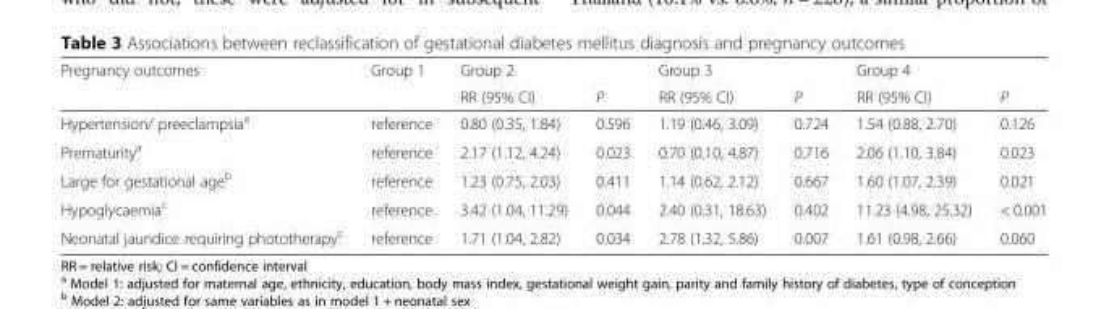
<table><thead><tr><td rowspan="2">Pregnancy outcomes</td><td rowspan="2">Group 1</td><td rowspan="2">Group 2 RR (95% CI)</td><td rowspan="2">P</td><td rowspan="2">Group 3 RR (95% CI)</td><td rowspan="2">P</td><td rowspan="2">Group 4 RR (95% CI)</td><td rowspan="2">P</td></tr><tr></tr></thead><tbody><tr><td>Hypertension/ preeclampsia<sup>a</sup></td><td>reference</td><td>0.80 (0.35, 1.84)</td><td>0.596</td><td>1.19 (0.46, 3.09)</td><td>0.724</td><td>1.54 (0.88, 2.70)</td><td>0.126</td></tr><tr><td>Prematurity<sup>a</sup></td><td>reference</td><td>2.17 (1.12, 4.24)</td><td>0.023</td><td>0.70 (0.10, 4.87)</td><td>0.716</td><td>2.06 (1.10, 3.84)</td><td>0.023</td></tr><tr><td>Large for gestational age<sup>b</sup></td><td>reference</td><td>1.23 (0.75, 2.03)</td><td>0.411</td><td>1.14 (0.62, 2.12)</td><td>0.667</td><td>1.60 (1.07, 2.39)</td><td>0.021</td></tr><tr><td>Hypoglycaemia<sup>c</sup></td><td>reference</td><td>3.42 (1.04, 11.29)</td><td>0.044</td><td>2.40 (0.31, 18.63)</td><td>0.402</td><td>11.23 (4.98, 25.32)</td><td>&lt; 0.001</td></tr><tr><td>Neonatal jaundice requiring phototherapy<sup>c</sup></td><td>reference</td><td>1.71 (1.04, 2.82)</td><td>0.034</td><td>2.78 (1.32, 5.86)</td><td>0.007</td><td>1.61 (0.98, 2.66)</td><td>0.060</td></tr></tbody></table>